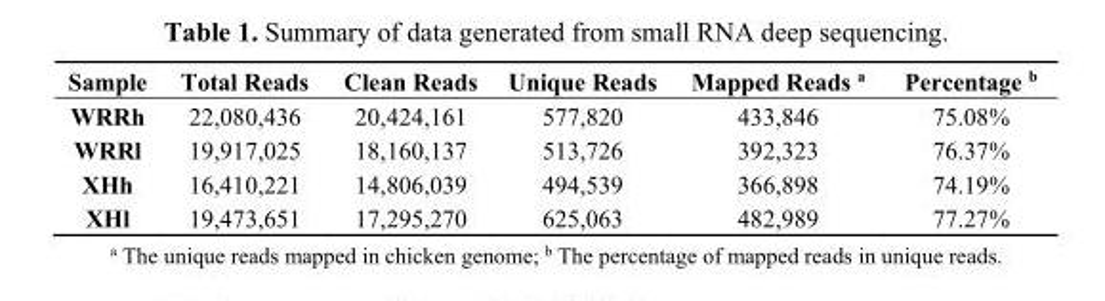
<table><thead><tr><td>Sample</td><td>Total Reads</td><td>Clean Reads</td><td>Unique Reads</td><td>Mapped Reads <sup>a</sup></td><td>Percentage <sup>b</sup></td></tr></thead><tbody><tr><td>WRRh</td><td>22,080,436</td><td>20,424,161</td><td>577,820</td><td>433,846</td><td>75.08%</td></tr><tr><td>WRRl</td><td>19,917,025</td><td>18,160,137</td><td>513,726</td><td>392,323</td><td>76.37%</td></tr><tr><td>XHh</td><td>16,410,221</td><td>14,806,039</td><td>494,539</td><td>366,898</td><td>74.19%</td></tr><tr><td>XHl</td><td>19,473,651</td><td>17,295,270</td><td>625,063</td><td>482,989</td><td>77.27%</td></tr></tbody></table>